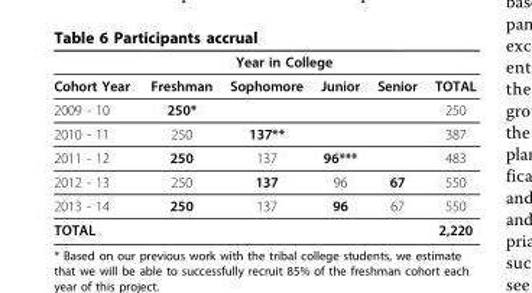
<table><thead><tr><td rowspan="2">Cohort Year</td><td colspan="4">Year in College</td><td rowspan="2">TOTAL</td></tr><tr><td>Freshman</td><td>Sophomore</td><td>Junior</td><td>Senior</td></tr></thead><tbody><tr><td>2009 - 10</td><td>250*</td><td></td><td></td><td></td><td>250</td></tr><tr><td>2010 - 11</td><td>250</td><td>137**</td><td></td><td></td><td>387</td></tr><tr><td>2011 - 12</td><td>250</td><td>137</td><td>96***</td><td></td><td>483</td></tr><tr><td>2012 - 13</td><td>250</td><td>137</td><td>96</td><td>67</td><td>550</td></tr><tr><td>2013 - 14</td><td>250</td><td>137</td><td>96</td><td>67</td><td>550</td></tr><tr><td>TOTAL</td><td></td><td></td><td></td><td></td><td>2,220</td></tr></tbody></table>